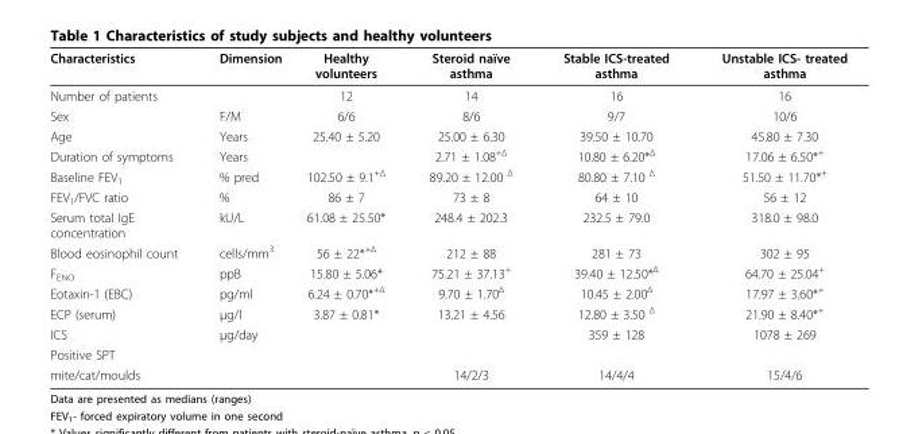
<table><thead><tr><td>Characteristics</td><td>Dimension</td><td>Healthy volunteers</td><td>Steroid naïve asthma</td><td>Stable ICS-treated asthma</td><td>Unstable ICS- treated asthma</td></tr></thead><tbody><tr><td>Number of patients</td><td></td><td>12</td><td>14</td><td>16</td><td>16</td></tr><tr><td>Sex</td><td>F/M</td><td>6/6</td><td>8/6</td><td>9/7</td><td>10/6</td></tr><tr><td>Age</td><td>Years</td><td>25.40 ± 5.20</td><td>25.00 ± 6.30</td><td>39.50 ± 10.70</td><td>45.80 ± 7.30</td></tr><tr><td>Duration of symptoms</td><td>Years</td><td></td><td>2.71 ± 1.08<sup>+Δ</sup></td><td>10.80 ± 6.20*<sup>Δ</sup></td><td>17.06 ± 6.50*<sup>+</sup></td></tr><tr><td>Baseline FEV<sub>1</sub></td><td>% pred</td><td>102.50 ± 9.1<sup>+Δ</sup></td><td>89.20 ± 12.00 <sup>Δ</sup></td><td>80.80 ± 7.10 <sup>Δ</sup></td><td>51.50 ± 11.70*<sup>+</sup></td></tr><tr><td>FEV<sub>1</sub>/FVC ratio</td><td>%</td><td>86 ± 7</td><td>73 ± 8</td><td>64 ± 10</td><td>56 ± 12</td></tr><tr><td>Serum total IgE concentration</td><td>kU/L</td><td>61.08 ± 25.50*</td><td>248.4 ± 202.3</td><td>232.5 ± 79.0</td><td>318.0 ± 98.0</td></tr><tr><td>Blood eosinophil count</td><td>cells/mm<sup>3</sup></td><td>56 ± 22*<sup>+Δ</sup></td><td>212 ± 88</td><td>281 ± 73</td><td>302 ± 95</td></tr><tr><td>F<sub>ENO</sub></td><td>ppB</td><td>15.80 ± 5.06*</td><td>75.21 ± 37.13<sup>+</sup></td><td>39.40 ± 12.50*<sup>Δ</sup></td><td>64.70 ± 25.04<sup>+</sup></td></tr><tr><td>Eotaxin-1 (EBC)</td><td>pg/ml</td><td>6.24 ± 0.70*<sup>+Δ</sup></td><td>9.70 ± 1.70<sup>Δ</sup></td><td>10.45 ± 2.00<sup>Δ</sup></td><td>17.97 ± 3.60*<sup>+</sup></td></tr><tr><td>ECP (serum)</td><td>μg/l</td><td>3.87 ± 0.81*</td><td>13.21 ± 4.56</td><td>12.80 ± 3.50 <sup>Δ</sup></td><td>21.90 ± 8.40*<sup>+</sup></td></tr><tr><td>ICS</td><td>μg/day</td><td></td><td></td><td>359 ± 128</td><td>1078 ± 269</td></tr><tr><td colspan="6">Positive SPT</td></tr><tr><td>mite/cat/moulds</td><td></td><td></td><td>14/2/3</td><td>14/4/4</td><td>15/4/6</td></tr></tbody></table>